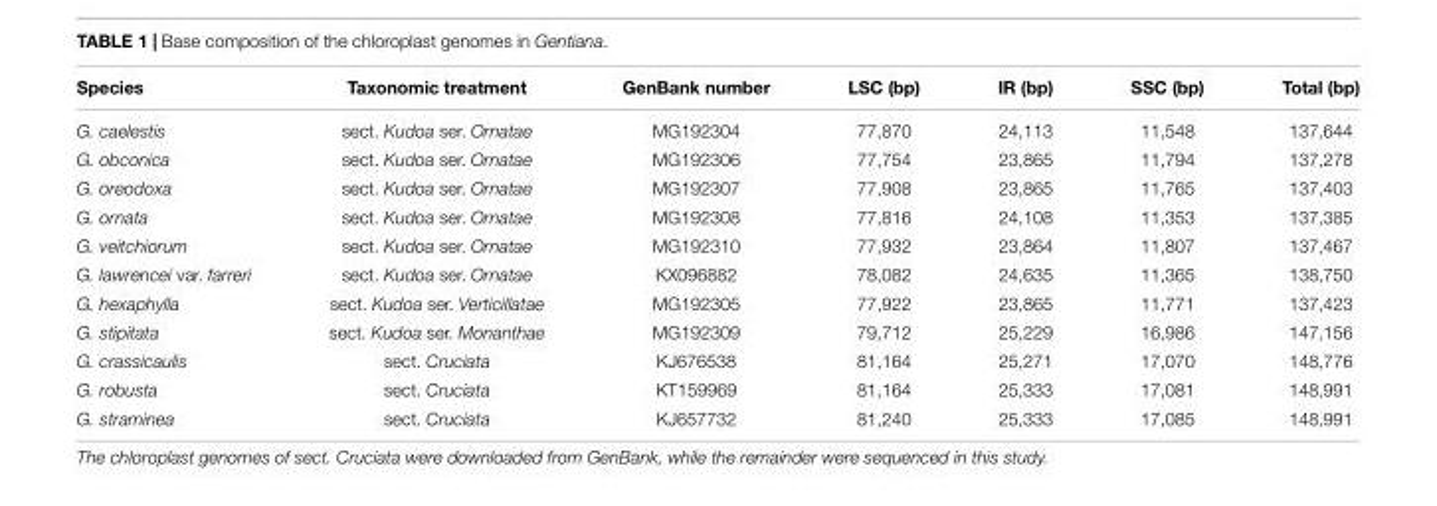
<table><thead><tr><td>Species</td><td>Taxonomic treatment</td><td>GenBank number</td><td>LSC (bp)</td><td>IR (bp)</td><td>SSC (bp)</td><td>Total (bp)</td></tr></thead><tbody><tr><td>G. caelestis</td><td>sect. Kudoa ser. Ornatae</td><td>MG192304</td><td>77,870</td><td>24,113</td><td>11,548</td><td>137,644</td></tr><tr><td>G. obconica</td><td>sect. Kudoa ser. Ornatae</td><td>MG192306</td><td>77,754</td><td>23,865</td><td>11,794</td><td>137,278</td></tr><tr><td>G. oreodoxa</td><td>sect. Kudoa ser. Ornatae</td><td>MG192307</td><td>77,908</td><td>23,865</td><td>11,765</td><td>137,403</td></tr><tr><td>G. ornata</td><td>sect. Kudoa ser. Ornatae</td><td>MG192308</td><td>77,816</td><td>24,108</td><td>11,353</td><td>137,385</td></tr><tr><td>G. veitchiorum</td><td>sect. Kudoa ser. Ornatae</td><td>MG192310</td><td>77,932</td><td>23,864</td><td>11,807</td><td>137,467</td></tr><tr><td>G. lawrencei var. farreri</td><td>sect. Kudoa ser. Ornatae</td><td>KX096882</td><td>78,082</td><td>24,635</td><td>11,365</td><td>138,750</td></tr><tr><td>G. hexaphylla</td><td>sect. Kudoa ser. Verticillatae</td><td>MG192305</td><td>77,922</td><td>23,865</td><td>11,771</td><td>137,423</td></tr><tr><td>G. stipitata</td><td>sect. Kudoa ser. Monanthae</td><td>MG192309</td><td>79,712</td><td>25,229</td><td>16,986</td><td>147,156</td></tr><tr><td>G. crassicaulis</td><td>sect. Cruciata</td><td>KJ676538</td><td>81,164</td><td>25,271</td><td>17,070</td><td>148,776</td></tr><tr><td>G. robusta</td><td>sect. Cruciata</td><td>KT159969</td><td>81,164</td><td>25,333</td><td>17,081</td><td>148,991</td></tr><tr><td>G. straminea</td><td>sect. Cruciata</td><td>KJ657732</td><td>81,240</td><td>25,333</td><td>17,085</td><td>148,991</td></tr></tbody></table>